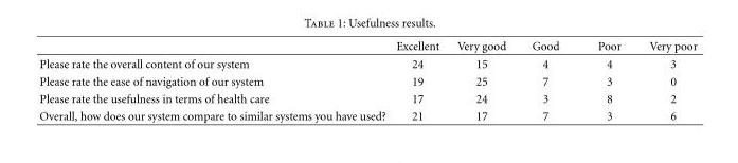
<table><thead><tr><td></td><td>Excellent</td><td>Very good</td><td>Good</td><td>Poor</td><td>Very poor</td></tr></thead><tbody><tr><td>Please rate the overall content of our system</td><td>24</td><td>15</td><td>4</td><td>4</td><td>3</td></tr><tr><td>Please rate the ease of navigation of our system</td><td>19</td><td>25</td><td>7</td><td>3</td><td>0</td></tr><tr><td>Please rate the usefulness in terms of health care</td><td>17</td><td>24</td><td>3</td><td>8</td><td>2</td></tr><tr><td>Overall, how does our system compare to similar systems you have used?</td><td>21</td><td>17</td><td>7</td><td>3</td><td>6</td></tr></tbody></table>